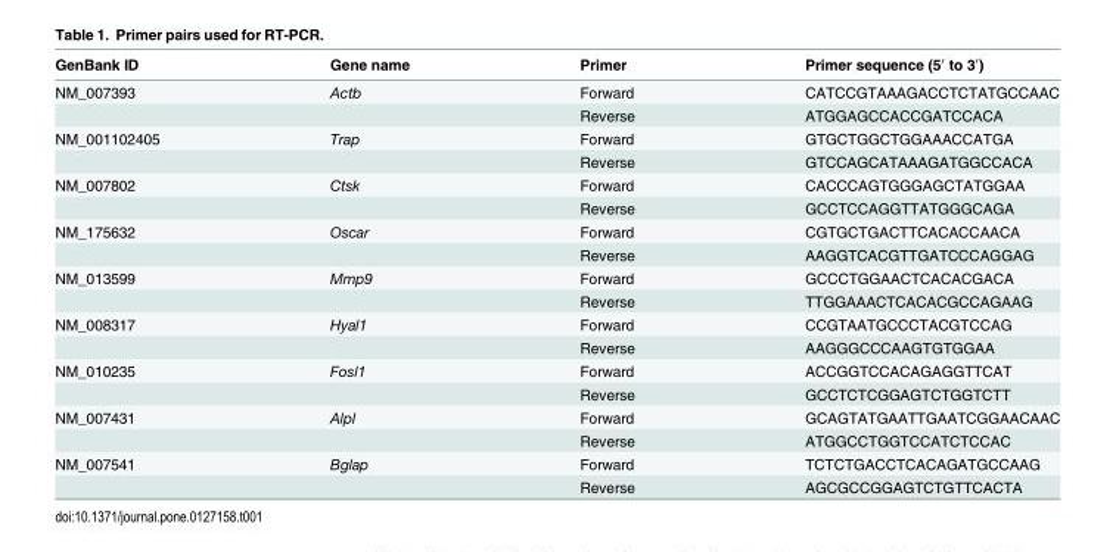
<table><thead><tr><td>GenBank ID</td><td>Gene name</td><td>Primer</td><td>Primer sequence (5′ to 3′)</td></tr></thead><tbody><tr><td rowspan="2">NM_007393</td><td>Actb</td><td>Forward</td><td>CATCCGTAAAGACCTCTATGCCAAC</td></tr><tr><td></td><td>Reverse</td><td>ATGGAGCCACCGATCCACA</td></tr><tr><td rowspan="2">NM_001102405</td><td>Trap</td><td>Forward</td><td>GTGCTGGCTGGAAACCATGA</td></tr><tr><td></td><td>Reverse</td><td>GTCCAGCATAAAGATGGCCACA</td></tr><tr><td rowspan="2">NM_007802</td><td>Ctsk</td><td>Forward</td><td>CACCCAGTGGGAGCTATGGAA</td></tr><tr><td></td><td>Reverse</td><td>GCCTCCAGGTTATGGGCAGA</td></tr><tr><td rowspan="2">NM_175632</td><td>Oscar</td><td>Forward</td><td>CGTGCTGACTTCACACCAACA</td></tr><tr><td></td><td>Reverse</td><td>AAGGTCACGTTGATCCCAGGAG</td></tr><tr><td rowspan="2">NM_013599</td><td>Mmp9</td><td>Forward</td><td>GCCCTGGAACTCACACGACA</td></tr><tr><td></td><td>Reverse</td><td>TTGGAAACTCACACGCCAGAAG</td></tr><tr><td rowspan="2">NM_008317</td><td>Hyal1</td><td>Forward</td><td>CCGTAATGCCCTACGTCCAG</td></tr><tr><td></td><td>Reverse</td><td>AAGGGCCCAAGTGTGGAA</td></tr><tr><td rowspan="2">NM_010235</td><td>Fosl1</td><td>Forward</td><td>ACCGGTCCACAGAGGTTCAT</td></tr><tr><td></td><td>Reverse</td><td>GCCTCTCGGAGTCTGGTCTT</td></tr><tr><td rowspan="2">NM_007431</td><td>Alpl</td><td>Forward</td><td>GCAGTATGAATTGAATCGGAACAAC</td></tr><tr><td></td><td>Reverse</td><td>ATGGCCTGGTCCATCTCCAC</td></tr><tr><td rowspan="2">NM_007541</td><td>Bglap</td><td>Forward</td><td>TCTCTGACCTCACAGATGCCAAG</td></tr><tr><td></td><td>Reverse</td><td>AGCGCCGGAGTCTGTTCACTA</td></tr></tbody></table>